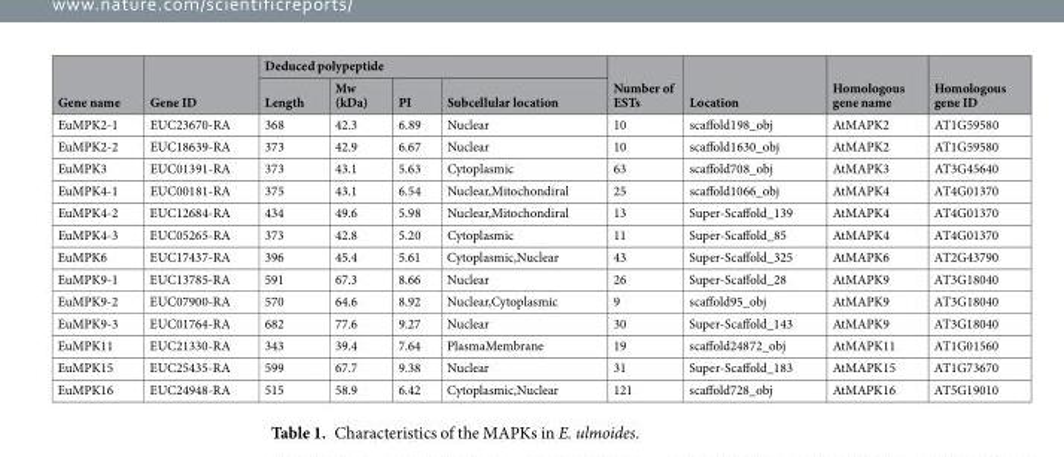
<table><thead><tr><td rowspan="2">Gene name</td><td rowspan="2">Gene ID</td><td colspan="4">Deduced polypeptide</td><td rowspan="2">Number of ESTs</td><td rowspan="2">Location</td><td rowspan="2">Homologous gene name</td><td rowspan="2">Homologous gene ID</td></tr><tr><td>Length</td><td>Mw (kDa)</td><td>PI</td><td>Subcellular location</td></tr></thead><tbody><tr><td>EuMPK2-1</td><td>EUC23670-RA</td><td>368</td><td>42.3</td><td>6.89</td><td>Nuclear</td><td>10</td><td>scaffold198_obj</td><td>AtMAPK2</td><td>AT1G59580</td></tr><tr><td>EuMPK2-2</td><td>EUC18639-RA</td><td>373</td><td>42.9</td><td>6.67</td><td>Nuclear</td><td>10</td><td>scaffold1630_obj</td><td>AtMAPK2</td><td>AT1G59580</td></tr><tr><td>EuMPK3</td><td>EUC01391-RA</td><td>373</td><td>43.1</td><td>5.63</td><td>Cytoplasmic</td><td>63</td><td>scaffold708_obj</td><td>AtMAPK3</td><td>AT3G45640</td></tr><tr><td>EuMPK4-1</td><td>EUC00181-RA</td><td>375</td><td>43.1</td><td>6.54</td><td>Nuclear,Mitochondiral</td><td>25</td><td>scaffold1066_obj</td><td>AtMAPK4</td><td>AT4G01370</td></tr><tr><td>EuMPK4-2</td><td>EUC12684-RA</td><td>434</td><td>49.6</td><td>5.98</td><td>Nuclear,Mitochondiral</td><td>13</td><td>Super-Scaffold_139</td><td>AtMAPK4</td><td>AT4G01370</td></tr><tr><td>EuMPK4-3</td><td>EUC05265-RA</td><td>373</td><td>42.8</td><td>5.20</td><td>Cytoplasmic</td><td>11</td><td>Super-Scaffold_85</td><td>AtMAPK4</td><td>AT4G01370</td></tr><tr><td>EuMPK6</td><td>EUC17437-RA</td><td>396</td><td>45.4</td><td>5.61</td><td>Cytoplasmic,Nuclear</td><td>43</td><td>Super-Scaffold_325</td><td>AtMAPK6</td><td>AT2G43790</td></tr><tr><td>EuMPK9-1</td><td>EUC13785-RA</td><td>591</td><td>67.3</td><td>8.66</td><td>Nuclear</td><td>26</td><td>Super-Scaffold_28</td><td>AtMAPK9</td><td>AT3G18040</td></tr><tr><td>EuMPK9-2</td><td>EUC07900-RA</td><td>570</td><td>64.6</td><td>8.92</td><td>Nuclear,Cytoplasmic</td><td>9</td><td>scaffold95_obj</td><td>AtMAPK9</td><td>AT3G18040</td></tr><tr><td>EuMPK9-3</td><td>EUC01764-RA</td><td>682</td><td>77.6</td><td>9.27</td><td>Nuclear</td><td>30</td><td>Super-Scaffold_143</td><td>AtMAPK9</td><td>AT3G18040</td></tr><tr><td>EuMPK11</td><td>EUC21330-RA</td><td>343</td><td>39.4</td><td>7.64</td><td>PlasmaMembrane</td><td>19</td><td>scaffold24872_obj</td><td>AtMAPK11</td><td>AT1G01560</td></tr><tr><td>EuMPK15</td><td>EUC25435-RA</td><td>599</td><td>67.7</td><td>9.38</td><td>Nuclear</td><td>31</td><td>Super-Scaffold_183</td><td>AtMAPK15</td><td>AT1G73670</td></tr><tr><td>EuMPK16</td><td>EUC24948-RA</td><td>515</td><td>58.9</td><td>6.42</td><td>Cytoplasmic,Nuclear</td><td>121</td><td>scaffold728_obj</td><td>AtMAPK16</td><td>AT5G19010</td></tr></tbody></table>